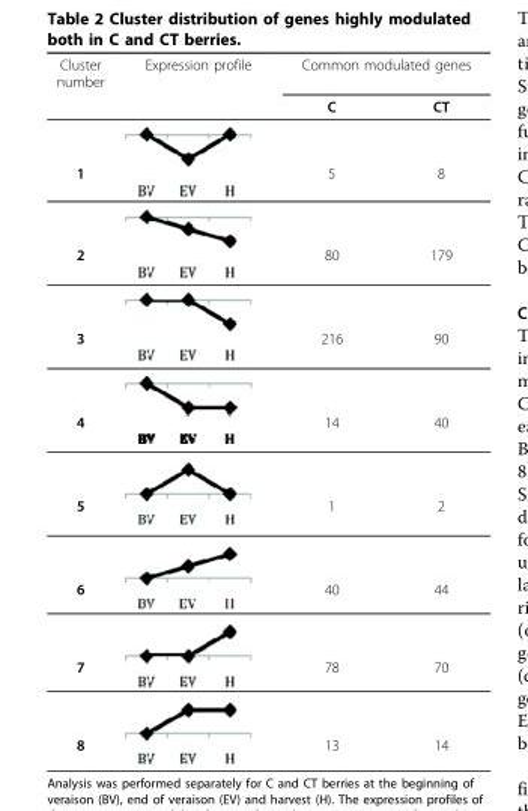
<table><thead><tr><td rowspan="2">Cluster number</td><td rowspan="2">Expression profile</td><td colspan="2">Common modulated genes</td></tr><tr><td>C</td><td>CT</td></tr></thead><tbody><tr><td>1</td><td></td><td>5</td><td>8</td></tr><tr><td>2</td><td></td><td>80</td><td>179</td></tr><tr><td>3</td><td></td><td>216</td><td>90</td></tr><tr><td>4</td><td></td><td>14</td><td>40</td></tr><tr><td>5</td><td></td><td>1</td><td>2</td></tr><tr><td>6</td><td></td><td>40</td><td>44</td></tr><tr><td>7</td><td></td><td>78</td><td>70</td></tr><tr><td>8</td><td></td><td>13</td><td>14</td></tr></tbody></table>